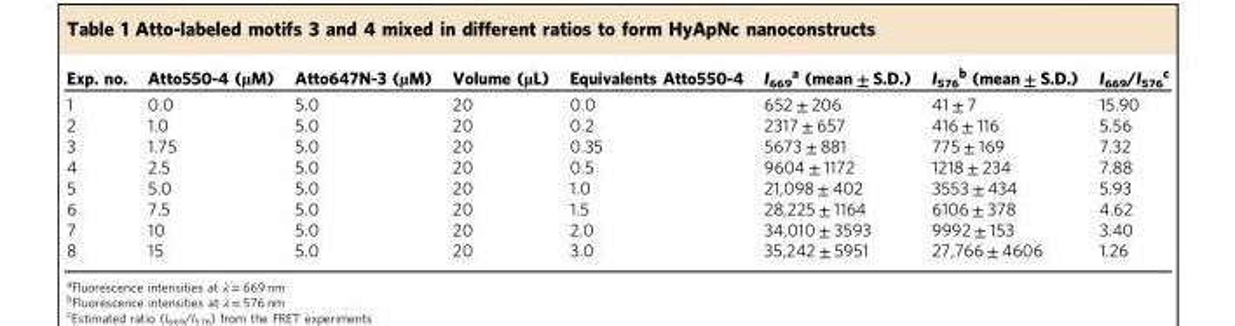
<table><thead><tr><td>Exp. no.</td><td>Atto550-4 (µM)</td><td>Atto647N-3 (µM)</td><td>Volume (µL)</td><td>Equivalents Atto550-4</td><td>I<sub>669</sub><sup>a</sup> (mean ± S.D.)</td><td>I<sub>576</sub><sup>b</sup> (mean ± S.D.)</td><td>I<sub>669</sub>/I<sub>576</sub><sup>c</sup></td></tr></thead><tbody><tr><td>1</td><td>0.0</td><td>5.0</td><td>20</td><td>0.0</td><td>652 ± 206</td><td>41 ± 7</td><td>15.90</td></tr><tr><td>2</td><td>1.0</td><td>5.0</td><td>20</td><td>0.2</td><td>2317 ± 657</td><td>416 ± 116</td><td>5.56</td></tr><tr><td>3</td><td>1.75</td><td>5.0</td><td>20</td><td>0.35</td><td>5673 ± 881</td><td>775 ± 169</td><td>7.32</td></tr><tr><td>4</td><td>2.5</td><td>5.0</td><td>20</td><td>0.5</td><td>9604 ± 1172</td><td>1218 ± 234</td><td>7.88</td></tr><tr><td>5</td><td>5.0</td><td>5.0</td><td>20</td><td>1.0</td><td>21,098 ± 402</td><td>3553 ± 434</td><td>5.93</td></tr><tr><td>6</td><td>7.5</td><td>5.0</td><td>20</td><td>1.5</td><td>28,225 ± 1164</td><td>6106 ± 378</td><td>4.62</td></tr><tr><td>7</td><td>10</td><td>5.0</td><td>20</td><td>2.0</td><td>34,010 ± 3593</td><td>9992 ± 153</td><td>3.40</td></tr><tr><td>8</td><td>15</td><td>5.0</td><td>20</td><td>3.0</td><td>35,242 ± 5951</td><td>27,766 ± 4606</td><td>1.26</td></tr></tbody></table>